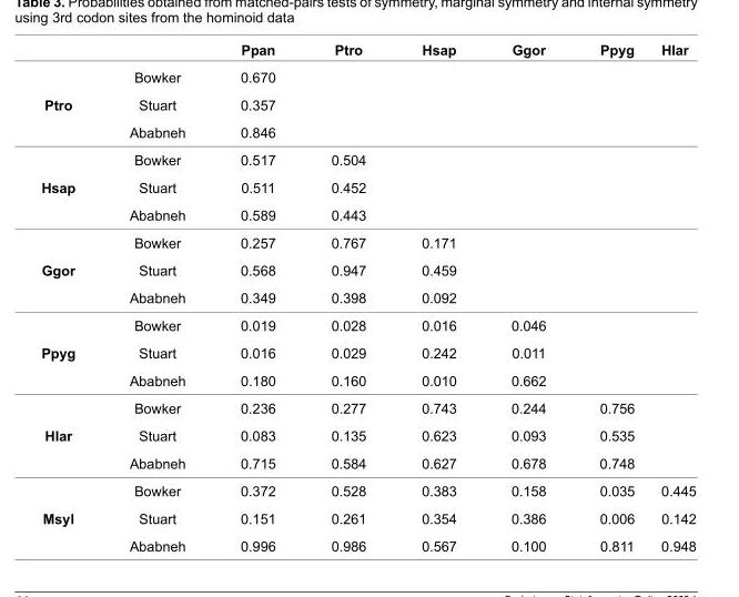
<table><thead><tr><td></td><td></td><td>Ppan</td><td>Ptro</td><td>Hsap</td><td>Ggor</td><td>Ppyg</td><td>Hlar</td></tr></thead><tbody><tr><td></td><td>Bowker</td><td>0.670</td><td></td><td></td><td></td><td></td><td></td></tr><tr><td rowspan="3">Ptro</td><td>Stuart</td><td>0.357</td><td></td><td></td><td></td><td></td><td></td></tr><tr><td>Ababneh</td><td>0.846</td><td></td><td></td><td></td><td></td><td></td></tr><tr><td>Bowker</td><td>0.517</td><td>0.504</td><td></td><td></td><td></td><td></td></tr><tr><td rowspan="3">Hsap</td><td>Stuart</td><td>0.511</td><td>0.452</td><td></td><td></td><td></td><td></td></tr><tr><td>Ababneh</td><td>0.589</td><td>0.443</td><td></td><td></td><td></td><td></td></tr><tr><td>Bowker</td><td>0.257</td><td>0.767</td><td>0.171</td><td></td><td></td><td></td></tr><tr><td rowspan="3">Ggor</td><td>Stuart</td><td>0.568</td><td>0.947</td><td>0.459</td><td></td><td></td><td></td></tr><tr><td>Ababneh</td><td>0.349</td><td>0.398</td><td>0.092</td><td></td><td></td><td></td></tr><tr><td>Bowker</td><td>0.019</td><td>0.028</td><td>0.016</td><td>0.046</td><td></td><td></td></tr><tr><td rowspan="3">Ppyg</td><td>Stuart</td><td>0.016</td><td>0.029</td><td>0.242</td><td>0.011</td><td></td><td></td></tr><tr><td>Ababneh</td><td>0.180</td><td>0.160</td><td>0.010</td><td>0.662</td><td></td><td></td></tr><tr><td>Bowker</td><td>0.236</td><td>0.277</td><td>0.743</td><td>0.244</td><td>0.756</td><td></td></tr><tr><td rowspan="3">Hlar</td><td>Stuart</td><td>0.083</td><td>0.135</td><td>0.623</td><td>0.093</td><td>0.535</td><td></td></tr><tr><td>Ababneh</td><td>0.715</td><td>0.584</td><td>0.627</td><td>0.678</td><td>0.748</td><td></td></tr><tr><td>Bowker</td><td>0.372</td><td>0.528</td><td>0.383</td><td>0.158</td><td>0.035</td><td>0.445</td></tr><tr><td rowspan="2">Msyl</td><td>Stuart</td><td>0.151</td><td>0.261</td><td>0.354</td><td>0.386</td><td>0.006</td><td>0.142</td></tr><tr><td>Ababneh</td><td>0.996</td><td>0.986</td><td>0.567</td><td>0.100</td><td>0.811</td><td>0.948</td></tr></tbody></table>